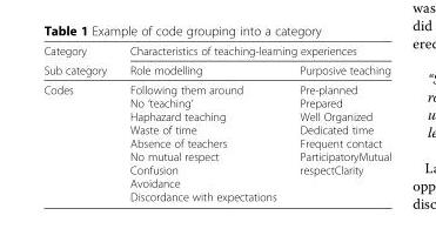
<table><thead><tr><td rowspan="2">Category Sub category</td><td colspan="2">Characteristics of teaching-learning experiences</td></tr><tr><td>Role modelling</td><td>Purposive teaching</td></tr></thead><tbody><tr><td>Codes</td><td>Following them around No ‘teaching’ Haphazard teaching Waste of time Absence of teachers No mutual respect Confusion Avoidance Discordance with expectations</td><td>Pre-planned Prepared Well Organized Dedicated time Frequent contact ParticipatoryMutual respectClarity</td></tr></tbody></table>